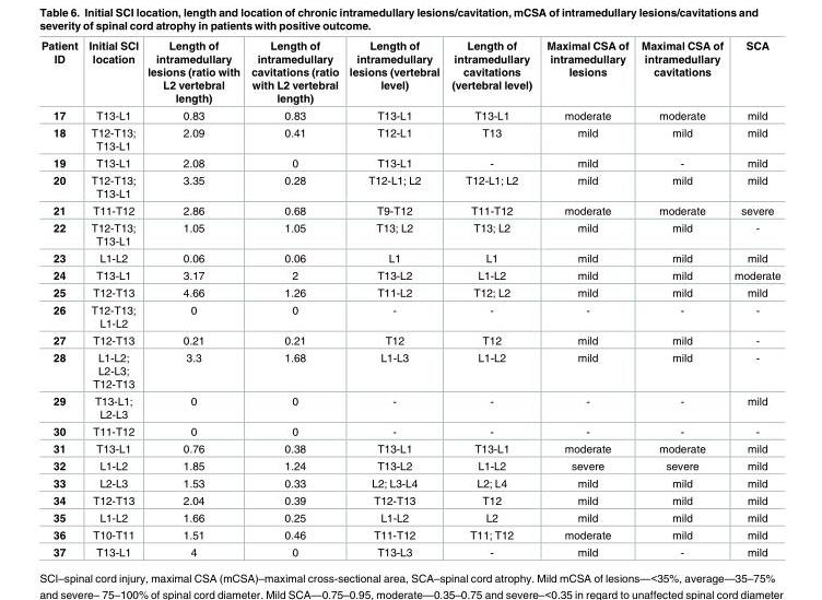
<table><thead><tr><td>Patient ID</td><td>Initial SCI location</td><td>Length of intramedullary lesions (ratio with L2 vertebral length)</td><td>Length of intramedullary cavitations (ratio with L2 vertebral length)</td><td>Length of intramedullary lesions (vertebral level)</td><td>Length of intramedullary cavitations (vertebral level)</td><td>Maximal CSA of intramedullary lesions</td><td>Maximal CSA of intramedullary cavitations</td><td>SCA</td></tr></thead><tbody><tr><td>17</td><td>T13-L1</td><td>0.83</td><td>0.83</td><td>T13-L1</td><td>T13-L1</td><td>moderate</td><td>moderate</td><td>mild</td></tr><tr><td>18</td><td>T12-T13; T13-L1</td><td>2.09</td><td>0.41</td><td>T12-L1</td><td>T13</td><td>mild</td><td>mild</td><td>mild</td></tr><tr><td>19</td><td>T13-L1</td><td>2.08</td><td>0</td><td>T13-L1</td><td>-</td><td>mild</td><td>-</td><td>mild</td></tr><tr><td>20</td><td>T12-T13; T13-L1</td><td>3.35</td><td>0.28</td><td>T12-L1; L2</td><td>T12-L1; L2</td><td>mild</td><td>mild</td><td>mild</td></tr><tr><td>21</td><td>T11-T12</td><td>2.86</td><td>0.68</td><td>T9-T12</td><td>T11-T12</td><td>moderate</td><td>moderate</td><td>severe</td></tr><tr><td>22</td><td>T12-T13; T13-L1</td><td>1.05</td><td>1.05</td><td>T13; L2</td><td>T13; L2</td><td>mild</td><td>mild</td><td>-</td></tr><tr><td>23</td><td>L1-L2</td><td>0.06</td><td>0.06</td><td>L1</td><td>L1</td><td>mild</td><td>mild</td><td>mild</td></tr><tr><td>24</td><td>T13-L1</td><td>3.17</td><td>2</td><td>T13-L2</td><td>L1-L2</td><td>mild</td><td>mild</td><td>moderate</td></tr><tr><td>25</td><td>T12-T13</td><td>4.66</td><td>1.26</td><td>T11-L2</td><td>T12; L2</td><td>mild</td><td>mild</td><td>mild</td></tr><tr><td>26</td><td>T12-T13; L1-L2</td><td>0</td><td>0</td><td>-</td><td>-</td><td>-</td><td>-</td><td>-</td></tr><tr><td>27</td><td>T12-T13</td><td>0.21</td><td>0.21</td><td>T12</td><td>T12</td><td>mild</td><td>mild</td><td>-</td></tr><tr><td>28</td><td>L1-L2; L2-L3; T12-T13</td><td>3.3</td><td>1.68</td><td>L1-L3</td><td>L1-L2</td><td>mild</td><td>mild</td><td>-</td></tr><tr><td>29</td><td>T13-L1; L2-L3</td><td>0</td><td>0</td><td>-</td><td>-</td><td>-</td><td>-</td><td>mild</td></tr><tr><td>30</td><td>T11-T12</td><td>0</td><td>0</td><td>-</td><td>-</td><td>-</td><td>-</td><td>-</td></tr><tr><td>31</td><td>T13-L1</td><td>0.76</td><td>0.38</td><td>T13-L1</td><td>T13-L1</td><td>moderate</td><td>moderate</td><td>mild</td></tr><tr><td>32</td><td>L1-L2</td><td>1.85</td><td>1.24</td><td>T13-L2</td><td>L1-L2</td><td>severe</td><td>severe</td><td>mild</td></tr><tr><td>33</td><td>L2-L3</td><td>1.53</td><td>0.33</td><td>L2; L3-L4</td><td>L2; L4</td><td>mild</td><td>mild</td><td>mild</td></tr><tr><td>34</td><td>T12-T13</td><td>2.04</td><td>0.39</td><td>T12-T13</td><td>T12</td><td>mild</td><td>mild</td><td>mild</td></tr><tr><td>35</td><td>L1-L2</td><td>1.66</td><td>0.25</td><td>L1-L2</td><td>L2</td><td>mild</td><td>mild</td><td>mild</td></tr><tr><td>36</td><td>T10-T11</td><td>1.51</td><td>0.46</td><td>T11-T12</td><td>T11; T12</td><td>moderate</td><td>mild</td><td>mild</td></tr><tr><td>37</td><td>T13-L1</td><td>4</td><td>0</td><td>T13-L3</td><td>-</td><td>mild</td><td>-</td><td>mild</td></tr></tbody></table>